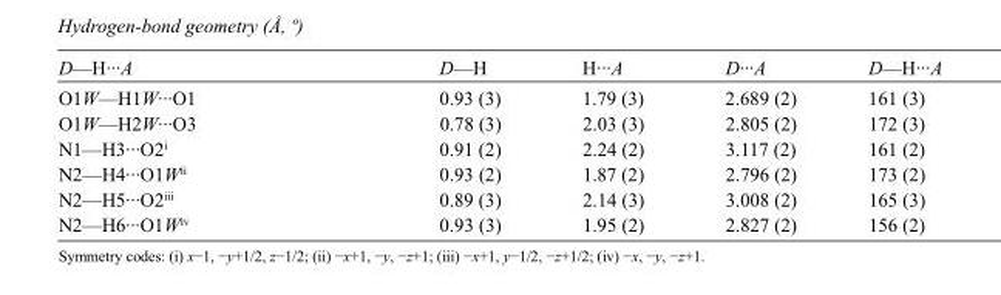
<table><tbody><tr><td>D—H···A</td><td>D—H</td><td>H···A</td><td>D···A</td><td>D—H···A</td></tr><tr><td>O1W—H1W···O1</td><td>0.93 (3)</td><td>1.79 (3)</td><td>2.689 (2)</td><td>161 (3)</td></tr><tr><td>O1W—H2W···O3</td><td>0.78 (3)</td><td>2.03 (3)</td><td>2.805 (2)</td><td>172 (3)</td></tr><tr><td>N1—H3···O2<sup>i</sup></td><td>0.91 (2)</td><td>2.24 (2)</td><td>3.117 (2)</td><td>161 (2)</td></tr><tr><td>N2—H4···O1W<sup>ii</sup></td><td>0.93 (2)</td><td>1.87 (2)</td><td>2.796 (2)</td><td>173 (2)</td></tr><tr><td>N2—H5···O2<sup>iii</sup></td><td>0.89 (3)</td><td>2.14 (3)</td><td>3.008 (2)</td><td>165 (3)</td></tr><tr><td>N2—H6···O1W<sup>iv</sup></td><td>0.93 (3)</td><td>1.95 (2)</td><td>2.827 (2)</td><td>156 (2)</td></tr></tbody></table>